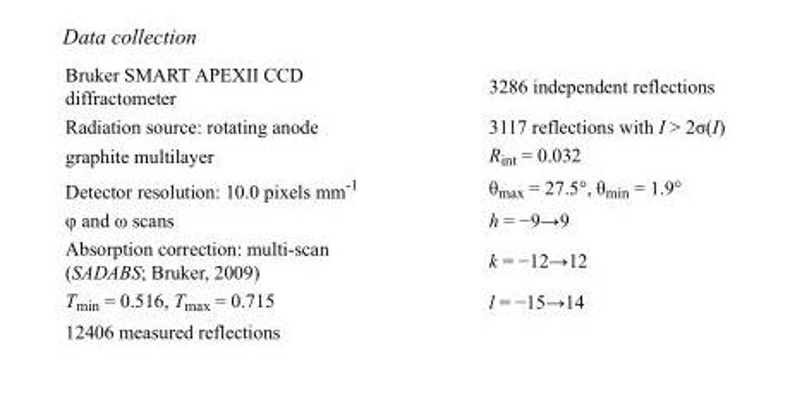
<table><tbody><tr><td>Bruker SMART APEXII CCD diffractometer</td><td>3286 independent reflections</td></tr><tr><td>Radiation source: rotating anode</td><td>3117 reflections with I &gt; 2σ(I)</td></tr><tr><td>graphite multilayer</td><td>R<sub>int</sub> = 0.032</td></tr><tr><td>Detector resolution: 10.0 pixels mm<sup>-1</sup></td><td>θ<sub>max</sub> = 27.5°, θ<sub>min</sub> = 1.9°</td></tr><tr><td>φ and ω scans</td><td>h = −9→9</td></tr><tr><td>Absorption correction: multi-scan (SADABS; Bruker, 2009)</td><td>k = −12→12</td></tr><tr><td>T<sub>min</sub> = 0.516, T<sub>max</sub> = 0.715</td><td>l = −15→14</td></tr><tr><td>12406 measured reflections</td><td></td></tr></tbody></table>